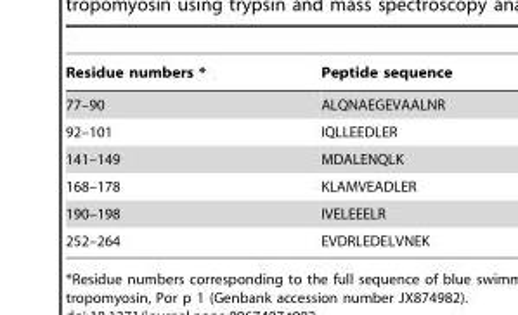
<table><thead><tr><td>Residue numbers *</td><td>Peptide sequence</td></tr></thead><tbody><tr><td>77–90</td><td>ALQNAEGEVAALNR</td></tr><tr><td>92–101</td><td>IQLLEEDLER</td></tr><tr><td>141–149</td><td>MDALENQLK</td></tr><tr><td>168–178</td><td>KLAMVEADLER</td></tr><tr><td>190–198</td><td>IVELEEELR</td></tr><tr><td>252–264</td><td>EVDRLEDELVNEK</td></tr></tbody></table>